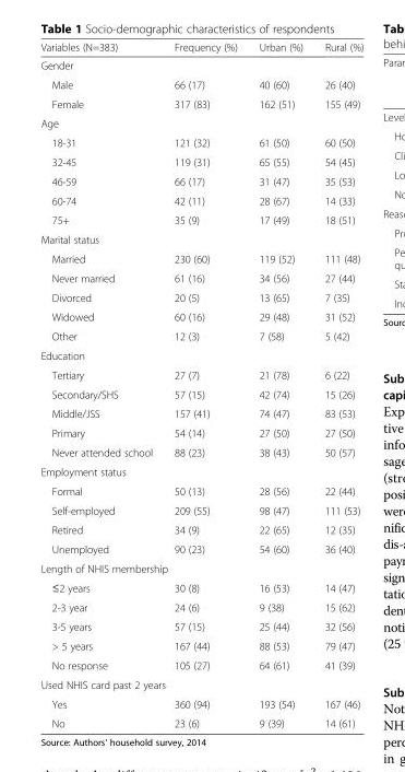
<table><thead><tr><td>Variables (N=383)</td><td>Frequency (%)</td><td>Urban (%)</td><td>Rural (%)</td></tr></thead><tbody><tr><td colspan="4">Gender</td></tr><tr><td>Male</td><td>66 (17)</td><td>40 (60)</td><td>26 (40)</td></tr><tr><td>Female</td><td>317 (83)</td><td>162 (51)</td><td>155 (49)</td></tr><tr><td colspan="4">Age</td></tr><tr><td>18-31</td><td>121 (32)</td><td>61 (50)</td><td>60 (50)</td></tr><tr><td>32-45</td><td>119 (31)</td><td>65 (55)</td><td>54 (45)</td></tr><tr><td>46-59</td><td>66 (17)</td><td>31 (47)</td><td>35 (53)</td></tr><tr><td>60-74</td><td>42 (11)</td><td>28 (67)</td><td>14 (33)</td></tr><tr><td>75+</td><td>35 (9)</td><td>17 (49)</td><td>18 (51)</td></tr><tr><td colspan="4">Marital status</td></tr><tr><td>Married</td><td>230 (60)</td><td>119 (52)</td><td>111 (48)</td></tr><tr><td>Never married</td><td>61 (16)</td><td>34 (56)</td><td>27 (44)</td></tr><tr><td>Divorced</td><td>20 (5)</td><td>13 (65)</td><td>7 (35)</td></tr><tr><td>Widowed</td><td>60 (16)</td><td>29 (48)</td><td>31 (52)</td></tr><tr><td>Other</td><td>12 (3)</td><td>7 (58)</td><td>5 (42)</td></tr><tr><td colspan="4">Education</td></tr><tr><td>Tertiary</td><td>27 (7)</td><td>21 (78)</td><td>6 (22)</td></tr><tr><td>Secondary/SHS</td><td>57 (15)</td><td>42 (74)</td><td>15 (26)</td></tr><tr><td>Middle/JSS</td><td>157 (41)</td><td>74 (47)</td><td>83 (53)</td></tr><tr><td>Primary</td><td>54 (14)</td><td>27 (50)</td><td>27 (50)</td></tr><tr><td>Never attended school</td><td>88 (23)</td><td>38 (43)</td><td>50 (57)</td></tr><tr><td colspan="4">Employment status</td></tr><tr><td>Formal</td><td>50 (13)</td><td>28 (56)</td><td>22 (44)</td></tr><tr><td>Self-employed</td><td>209 (55)</td><td>98 (47)</td><td>111 (53)</td></tr><tr><td>Retired</td><td>34 (9)</td><td>22 (65)</td><td>12 (35)</td></tr><tr><td>Unemployed</td><td>90 (23)</td><td>54 (60)</td><td>36 (40)</td></tr><tr><td colspan="4">Length of NHIS membership</td></tr><tr><td>≤2 years</td><td>30 (8)</td><td>16 (53)</td><td>14 (47)</td></tr><tr><td>2-3 year</td><td>24 (6)</td><td>9 (38)</td><td>15 (62)</td></tr><tr><td>3-5 years</td><td>57 (15)</td><td>25 (44)</td><td>32 (56)</td></tr><tr><td>&gt; 5 years</td><td>167 (44)</td><td>88 (53)</td><td>79 (47)</td></tr><tr><td>No response</td><td>105 (27)</td><td>64 (61)</td><td>41 (39)</td></tr><tr><td colspan="4">Used NHIS card past 2 years</td></tr><tr><td>Yes</td><td>360 (94)</td><td>193 (54)</td><td>167 (46)</td></tr><tr><td>No</td><td>23 (6)</td><td>9 (39)</td><td>14 (61)</td></tr></tbody></table>